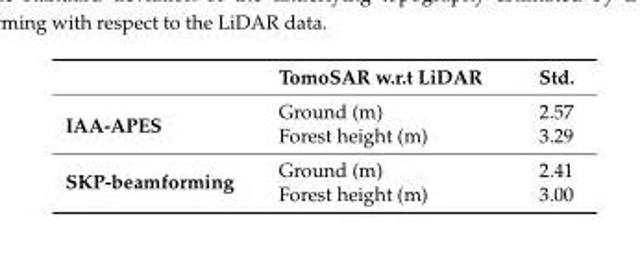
<table><thead><tr><td></td><td>TomoSAR w.r.t LiDAR</td><td>Std.</td></tr></thead><tbody><tr><td rowspan="2">IAA-APES</td><td>Ground (m)</td><td>2.57</td></tr><tr><td>Forest height (m)</td><td>3.29</td></tr><tr><td rowspan="2">SKP-beamforming</td><td>Ground (m)</td><td>2.41</td></tr><tr><td>Forest height (m)</td><td>3.00</td></tr></tbody></table>